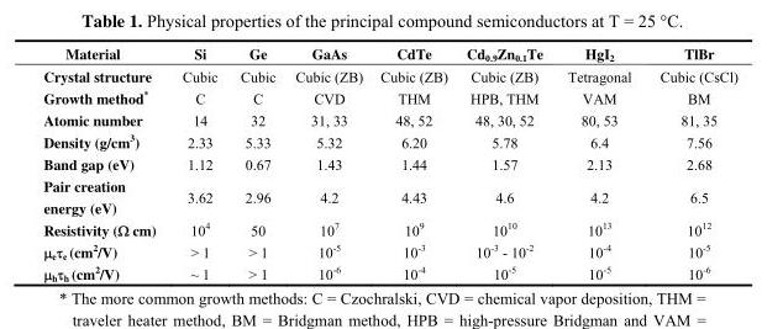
<table><thead><tr><td>Material</td><td>Si</td><td>Ge</td><td>GaAs</td><td>CdTe</td><td>Cd<sub>0.9</sub>Zn<sub>0.1</sub>Te</td><td>HgI<sub>2</sub></td><td>TlBr</td></tr></thead><tbody><tr><td>Crystal structure</td><td>Cubic</td><td>Cubic</td><td>Cubic (ZB)</td><td>Cubic (ZB)</td><td>Cubic (ZB)</td><td>Tetragonal</td><td>Cubic (CsCl)</td></tr><tr><td>Growth method*</td><td>C</td><td>C</td><td>CVD</td><td>THM</td><td>HPB, THM</td><td>VAM</td><td>BM</td></tr><tr><td>Atomic number</td><td>14</td><td>32</td><td>31, 33</td><td>48, 52</td><td>48, 30, 52</td><td>80, 53</td><td>81, 35</td></tr><tr><td>Density (g/cm<sup>3</sup>)</td><td>2.33</td><td>5.33</td><td>5.32</td><td>6.20</td><td>5.78</td><td>6.4</td><td>7.56</td></tr><tr><td>Band gap (eV)</td><td>1.12</td><td>0.67</td><td>1.43</td><td>1.44</td><td>1.57</td><td>2.13</td><td>2.68</td></tr><tr><td>Pair creation energy (eV)</td><td>3.62</td><td>2.96</td><td>4.2</td><td>4.43</td><td>4.6</td><td>4.2</td><td>6.5</td></tr><tr><td>Resistivity (Ω cm)</td><td>10<sup>4</sup></td><td>50</td><td>10<sup>7</sup></td><td>10<sup>9</sup></td><td>10<sup>10</sup></td><td>10<sup>13</sup></td><td>10<sup>12</sup></td></tr><tr><td>μ<sub>e</sub>τ<sub>e</sub> (cm<sup>2</sup>/V)</td><td>&gt; 1</td><td>&gt; 1</td><td>10<sup>-5</sup></td><td>10<sup>-3</sup></td><td>10<sup>-3</sup> - 10<sup>-2</sup></td><td>10<sup>-4</sup></td><td>10<sup>-5</sup></td></tr><tr><td>μ<sub>h</sub>τ<sub>h</sub> (cm<sup>2</sup>/V)</td><td>~ 1</td><td>&gt; 1</td><td>10<sup>-6</sup></td><td>10<sup>-4</sup></td><td>10<sup>-5</sup></td><td>10<sup>-5</sup></td><td>10<sup>-6</sup></td></tr></tbody></table>